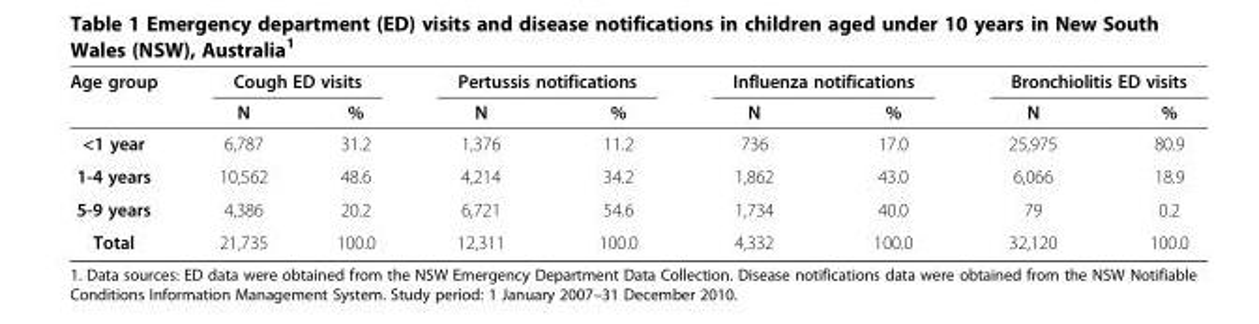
<table><thead><tr><td rowspan="2">Age group</td><td colspan="2">Cough ED visits</td><td colspan="2">Pertussis notifications</td><td colspan="2">Influenza notifications</td><td colspan="2">Bronchiolitis ED visits</td></tr><tr><td>N</td><td>%</td><td>N</td><td>%</td><td>N</td><td>%</td><td>N</td><td>%</td></tr></thead><tbody><tr><td>&lt;1 year</td><td>6,787</td><td>31.2</td><td>1,376</td><td>11.2</td><td>736</td><td>17.0</td><td>25,975</td><td>80.9</td></tr><tr><td>1-4 years</td><td>10,562</td><td>48.6</td><td>4,214</td><td>34.2</td><td>1,862</td><td>43.0</td><td>6,066</td><td>18.9</td></tr><tr><td>5-9 years</td><td>4,386</td><td>20.2</td><td>6,721</td><td>54.6</td><td>1,734</td><td>40.0</td><td>79</td><td>0.2</td></tr><tr><td>Total</td><td>21,735</td><td>100.0</td><td>12,311</td><td>100.0</td><td>4,332</td><td>100.0</td><td>32,120</td><td>100.0</td></tr></tbody></table>